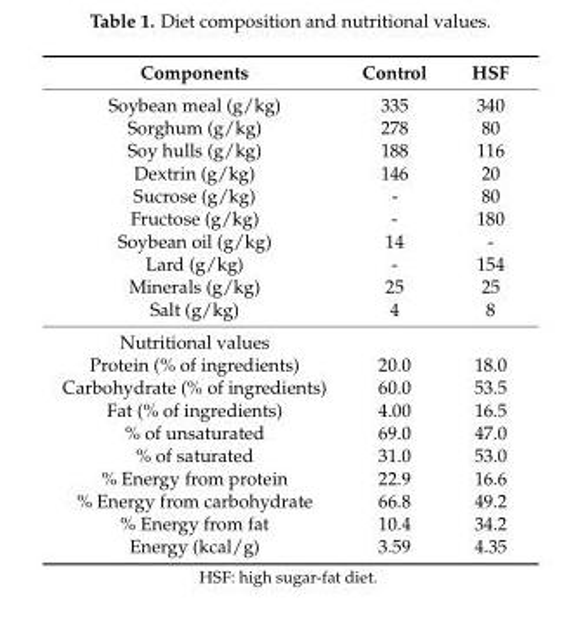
<table><thead><tr><td>Components</td><td>Control</td><td>HSF</td></tr></thead><tbody><tr><td>Soybean meal (g/kg)</td><td>335</td><td>340</td></tr><tr><td>Sorghum (g/kg)</td><td>278</td><td>80</td></tr><tr><td>Soy hulls (g/kg)</td><td>188</td><td>116</td></tr><tr><td>Dextrin (g/kg)</td><td>146</td><td>20</td></tr><tr><td>Sucrose (g/kg)</td><td>-</td><td>80</td></tr><tr><td>Fructose (g/kg)</td><td>-</td><td>180</td></tr><tr><td>Soybean oil (g/kg)</td><td>14</td><td>-</td></tr><tr><td>Lard (g/kg)</td><td>-</td><td>154</td></tr><tr><td>Minerals (g/kg)</td><td>25</td><td>25</td></tr><tr><td>Salt (g/kg)</td><td>4</td><td>8</td></tr><tr><td colspan="3">Nutritional values</td></tr><tr><td>Protein (% of ingredients)</td><td>20.0</td><td>18.0</td></tr><tr><td>Carbohydrate (% of ingredients)</td><td>60.0</td><td>53.5</td></tr><tr><td>Fat (% of ingredients)</td><td>4.00</td><td>16.5</td></tr><tr><td>% of unsaturated</td><td>69.0</td><td>47.0</td></tr><tr><td>% of saturated</td><td>31.0</td><td>53.0</td></tr><tr><td>% Energy from protein</td><td>22.9</td><td>16.6</td></tr><tr><td>% Energy from carbohydrate</td><td>66.8</td><td>49.2</td></tr><tr><td>% Energy from fat</td><td>10.4</td><td>34.2</td></tr><tr><td>Energy (kcal/g)</td><td>3.59</td><td>4.35</td></tr></tbody></table>